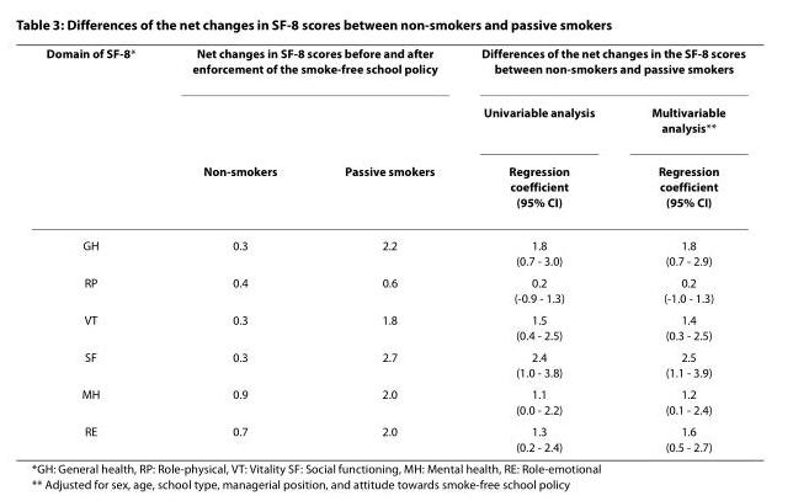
<table><thead><tr><td rowspan="3">Domain of SF-8*</td><td colspan="2">Net changes in SF-8 scores before and after enforcement of the smoke-free school policy</td><td colspan="2">Differences of the net changes in the SF-8 scores between non-smokers and passive smokers</td></tr><tr><td rowspan="2">Non-smokers</td><td rowspan="2">Passive smokers</td><td rowspan="2">Univariable analysis Regression coefficient (95% CI)</td><td rowspan="2">Multivariable analysis** Regression coefficient (95% CI)</td></tr><tr></tr></thead><tbody><tr><td>GH</td><td>0.3</td><td>2.2</td><td>1.8 (0.7 - 3.0)</td><td>1.8 (0.7 - 2.9)</td></tr><tr><td>RP</td><td>0.4</td><td>0.6</td><td>0.2 (-0.9 - 1.3)</td><td>0.2 (-1.0 - 1.3)</td></tr><tr><td>VT</td><td>0.3</td><td>1.8</td><td>1.5 (0.4 - 2.5)</td><td>1.4 (0.3 - 2.5)</td></tr><tr><td>SF</td><td>0.3</td><td>2.7</td><td>2.4 (1.0 - 3.8)</td><td>2.5 (1.1 - 3.9)</td></tr><tr><td>MH</td><td>0.9</td><td>2.0</td><td>1.1 (0.0 - 2.2)</td><td>1.2 (0.1 - 2.4)</td></tr><tr><td>RE</td><td>0.7</td><td>2.0</td><td>1.3 (0.2 - 2.4)</td><td>1.6 (0.5 - 2.7)</td></tr></tbody></table>